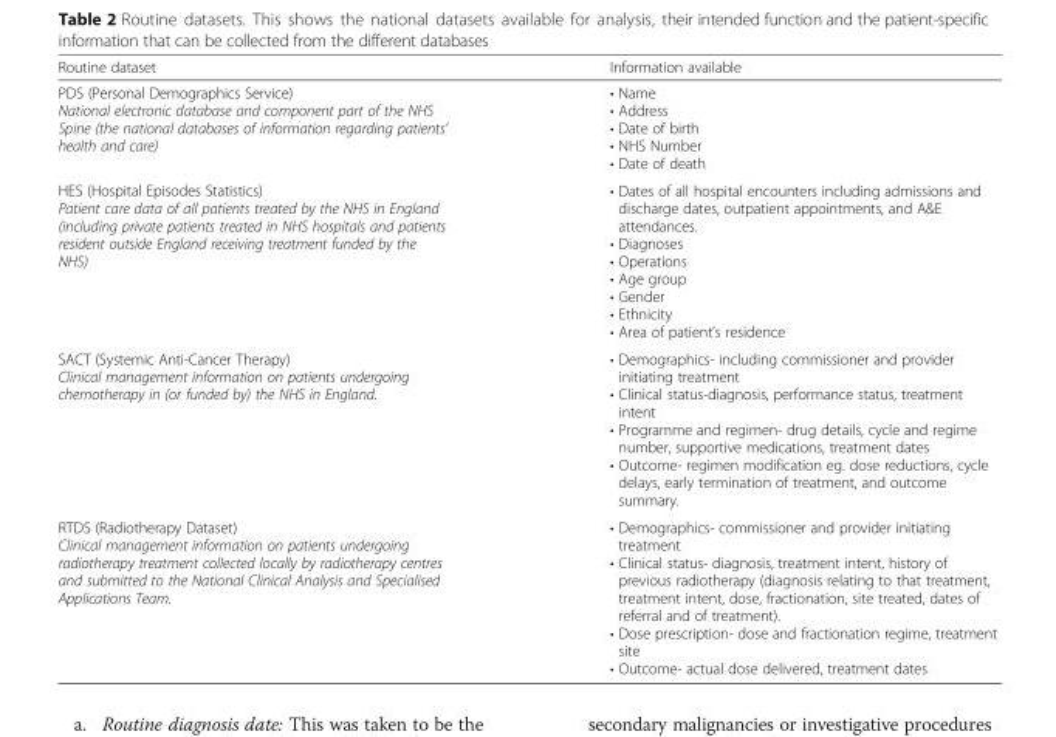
<table><thead><tr><td>Routine dataset</td><td>Information available</td></tr></thead><tbody><tr><td>PDS (Personal Demographics Service) National electronic database and component part of the NHS Spine (the national databases of information regarding patients’ health and care)</td><td>• Name • Address • Date of birth • NHS Number • Date of death</td></tr><tr><td>HES (Hospital Episodes Statistics) Patient care data of all patients treated by the NHS in England (including private patients treated in NHS hospitals and patients resident outside England receiving treatment funded by the NHS)</td><td>• Dates of all hospital encounters including admissions and discharge dates, outpatient appointments, and A&amp;E attendances. • Diagnoses • Operations • Age group • Gender • Ethnicity • Area of patient’s residence</td></tr><tr><td>SACT (Systemic Anti-Cancer Therapy) Clinical management information on patients undergoing chemotherapy in (or funded by) the NHS in England.</td><td>• Demographics- including commissioner and provider initiating treatment • Clinical status-diagnosis, performance status, treatment intent • Programme and regimen- drug details, cycle and regime number, supportive medications, treatment dates • Outcome- regimen modification eg. dose reductions, cycle delays, early termination of treatment, and outcome summary.</td></tr><tr><td>RTDS (Radiotherapy Dataset) Clinical management information on patients undergoing radiotherapy treatment collected locally by radiotherapy centres and submitted to the National Clinical Analysis and Specialised Applications Team.</td><td>• Demographics- commissioner and provider initiating treatment • Clinical status- diagnosis, treatment intent, history of previous radiotherapy (diagnosis relating to that treatment, treatment intent, dose, fractionation, site treated, dates of referral and of treatment). • Dose prescription- dose and fractionation regime, treatment site • Outcome- actual dose delivered, treatment dates</td></tr></tbody></table>